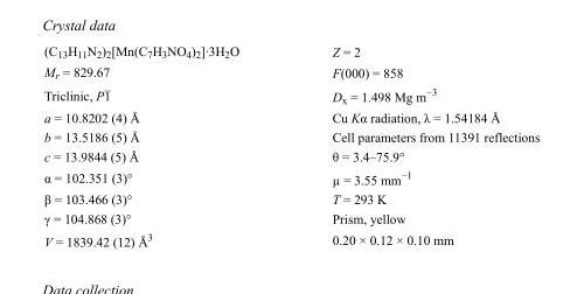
<table><tbody><tr><td>(C<sub>13</sub>H<sub>11</sub>N<sub>2</sub>)<sub>2</sub>[Mn(C<sub>7</sub>H<sub>3</sub>NO<sub>4</sub>)<sub>2</sub>]·3H<sub>2</sub>O</td><td>Z = 2</td></tr><tr><td>M<sub>r</sub> = 829.67</td><td>F(000) = 858</td></tr><tr><td>Triclinic, P1</td><td>D<sub>x</sub> = 1.498 Mg m<sup>−3</sup></td></tr><tr><td>a = 10.8202 (4) Å</td><td>Cu Kα radiation, λ = 1.54184 Å</td></tr><tr><td>b = 13.5186 (5) Å</td><td>Cell parameters from 11391 reflections</td></tr><tr><td>c = 13.9844 (5) Å</td><td>θ = 3.4–75.9°</td></tr><tr><td>α = 102.351 (3)°</td><td>µ = 3.55 mm<sup>−1</sup></td></tr><tr><td>β = 103.466 (3)°</td><td>T = 293 K</td></tr><tr><td>γ = 104.868 (3)°</td><td>Prism, yellow</td></tr><tr><td>V = 1839.42 (12) Å<sup>3</sup></td><td>0.20 × 0.12 × 0.10 mm</td></tr></tbody></table>